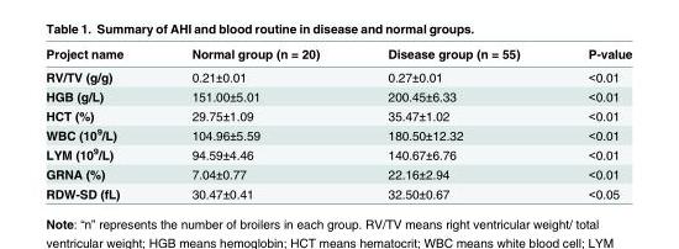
<table><thead><tr><td>Project name</td><td>Normal group (n = 20)</td><td>Disease group (n = 55)</td><td>P-value</td></tr></thead><tbody><tr><td>RV/TV (g/g)</td><td>0.21±0.01</td><td>0.27±0.01</td><td>&lt;0.01</td></tr><tr><td>HGB (g/L)</td><td>151.00±5.01</td><td>200.45±6.33</td><td>&lt;0.01</td></tr><tr><td>HCT (%)</td><td>29.75±1.09</td><td>35.47±1.02</td><td>&lt;0.01</td></tr><tr><td>WBC (10<sup>9</sup>/L)</td><td>104.96±5.59</td><td>180.50±12.32</td><td>&lt;0.01</td></tr><tr><td>LYM (10<sup>9</sup>/L)</td><td>94.59±4.46</td><td>140.67±6.76</td><td>&lt;0.01</td></tr><tr><td>GRNA (%)</td><td>7.04±0.77</td><td>22.16±2.94</td><td>&lt;0.01</td></tr><tr><td>RDW-SD (fL)</td><td>30.47±0.41</td><td>32.50±0.67</td><td>&lt;0.05</td></tr></tbody></table>